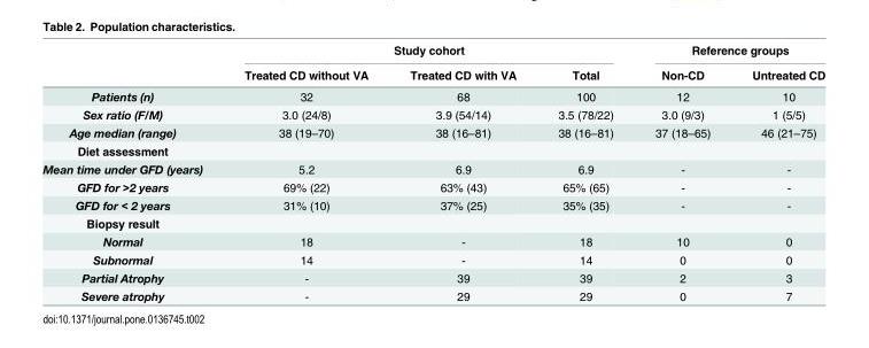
<table><thead><tr><td rowspan="2"></td><td colspan="3">Study cohort</td><td colspan="2">Reference groups</td></tr><tr><td>Treated CD without VA</td><td>Treated CD with VA</td><td>Total</td><td>Non-CD</td><td>Untreated CD</td></tr></thead><tbody><tr><td>Patients (n)</td><td>32</td><td>68</td><td>100</td><td>12</td><td>10</td></tr><tr><td>Sex ratio (F/M)</td><td>3.0 (24/8)</td><td>3.9 (54/14)</td><td>3.5 (78/22)</td><td>3.0 (9/3)</td><td>1 (5/5)</td></tr><tr><td>Age median (range)</td><td>38 (19–70)</td><td>38 (16–81)</td><td>38 (16–81)</td><td>37 (18–65)</td><td>46 (21–75)</td></tr><tr><td colspan="6">Diet assessment</td></tr><tr><td>Mean time under GFD (years)</td><td>5.2</td><td>6.9</td><td>6.9</td><td>-</td><td>-</td></tr><tr><td>GFD for &gt;2 years</td><td>69% (22)</td><td>63% (43)</td><td>65% (65)</td><td>-</td><td>-</td></tr><tr><td>GFD for &lt; 2 years</td><td>31% (10)</td><td>37% (25)</td><td>35% (35)</td><td>-</td><td>-</td></tr><tr><td colspan="6">Biopsy result</td></tr><tr><td>Normal</td><td>18</td><td>-</td><td>18</td><td>10</td><td>0</td></tr><tr><td>Subnormal</td><td>14</td><td>-</td><td>14</td><td>0</td><td>0</td></tr><tr><td>Partial Atrophy</td><td>-</td><td>39</td><td>39</td><td>2</td><td>3</td></tr><tr><td>Severe atrophy</td><td>-</td><td>29</td><td>29</td><td>0</td><td>7</td></tr></tbody></table>